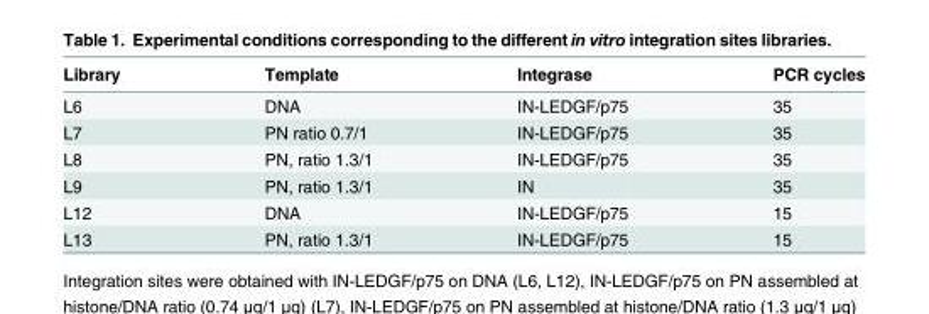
<table><thead><tr><td>Library</td><td>Template</td><td>Integrase</td><td>PCR cycles</td></tr></thead><tbody><tr><td>L6</td><td>DNA</td><td>IN-LEDGF/p75</td><td>35</td></tr><tr><td>L7</td><td>PN ratio 0.7/1</td><td>IN-LEDGF/p75</td><td>35</td></tr><tr><td>L8</td><td>PN, ratio 1.3/1</td><td>IN-LEDGF/p75</td><td>35</td></tr><tr><td>L9</td><td>PN, ratio 1.3/1</td><td>IN</td><td>35</td></tr><tr><td>L12</td><td>DNA</td><td>IN-LEDGF/p75</td><td>15</td></tr><tr><td>L13</td><td>PN, ratio 1.3/1</td><td>IN-LEDGF/p75</td><td>15</td></tr></tbody></table>